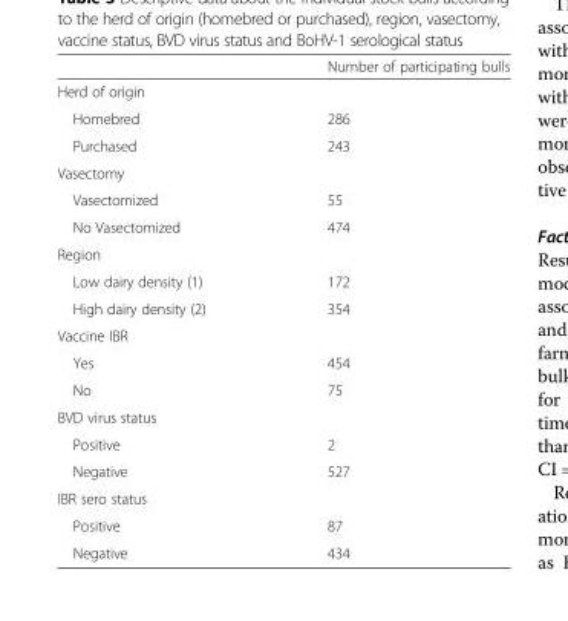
<table><thead><tr><td></td><td>Number of participating bulls</td></tr></thead><tbody><tr><td colspan="2">Herd of origin</td></tr><tr><td>Homebred</td><td>286</td></tr><tr><td>Purchased</td><td>243</td></tr><tr><td colspan="2">Vasectomy</td></tr><tr><td>Vasectomized</td><td>55</td></tr><tr><td>No Vasectomized</td><td>474</td></tr><tr><td colspan="2">Region</td></tr><tr><td>Low dairy density (1)</td><td>172</td></tr><tr><td>High dairy density (2)</td><td>354</td></tr><tr><td colspan="2">Vaccine IBR</td></tr><tr><td>Yes</td><td>454</td></tr><tr><td>No</td><td>75</td></tr><tr><td colspan="2">BVD virus status</td></tr><tr><td>Positive</td><td>2</td></tr><tr><td>Negative</td><td>527</td></tr><tr><td colspan="2">IBR sero status</td></tr><tr><td>Positive</td><td>87</td></tr><tr><td>Negative</td><td>434</td></tr></tbody></table>